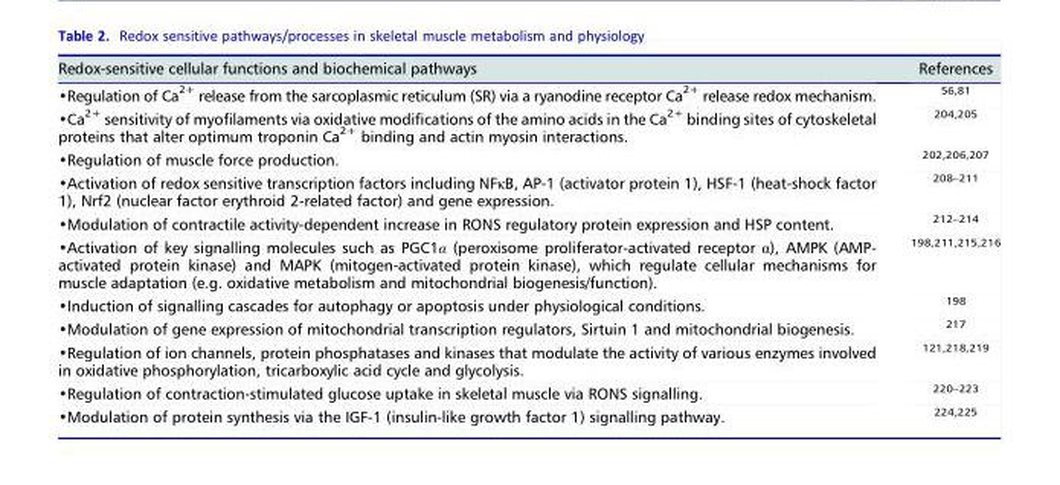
<table><thead><tr><td>Redox-sensitive cellular functions and biochemical pathways</td><td>References</td></tr></thead><tbody><tr><td>•Regulation of Ca<sup>2+</sup> release from the sarcoplasmic reticulum (SR) via a ryanodine receptor Ca<sup>2+</sup> release redox mechanism.</td><td>56,81</td></tr><tr><td>•Ca<sup>2+</sup> sensitivity of myofilaments via oxidative modifications of the amino acids in the Ca<sup>2+</sup> binding sites of cytoskeletal proteins that alter optimum troponin Ca<sup>2+</sup> binding and actin myosin interactions.</td><td>204,205</td></tr><tr><td>•Regulation of muscle force production.</td><td>202,206,207</td></tr><tr><td>•Activation of redox sensitive transcription factors including NFκB, AP-1 (activator protein 1), HSF-1 (heat-shock factor 1), Nrf2 (nuclear factor erythroid 2-related factor) and gene expression.</td><td>208–211</td></tr><tr><td>•Modulation of contractile activity-dependent increase in RONS regulatory protein expression and HSP content.</td><td>212–214</td></tr><tr><td>•Activation of key signalling molecules such as PGC1α (peroxisome proliferator-activated receptor α), AMPK (AMP- activated protein kinase) and MAPK (mitogen-activated protein kinase), which regulate cellular mechanisms for muscle adaptation (e.g. oxidative metabolism and mitochondrial biogenesis/function).</td><td>198,211,215,216</td></tr><tr><td>•Induction of signalling cascades for autophagy or apoptosis under physiological conditions.</td><td>198</td></tr><tr><td>•Modulation of gene expression of mitochondrial transcription regulators, Sirtuin 1 and mitochondrial biogenesis.</td><td>217</td></tr><tr><td>•Regulation of ion channels, protein phosphatases and kinases that modulate the activity of various enzymes involved in oxidative phosphorylation, tricarboxylic acid cycle and glycolysis.</td><td>121,218,219</td></tr><tr><td>•Regulation of contraction-stimulated glucose uptake in skeletal muscle via RONS signalling.</td><td>220–223</td></tr><tr><td>•Modulation of protein synthesis via the IGF-1 (insulin-like growth factor 1) signalling pathway.</td><td>224,225</td></tr></tbody></table>